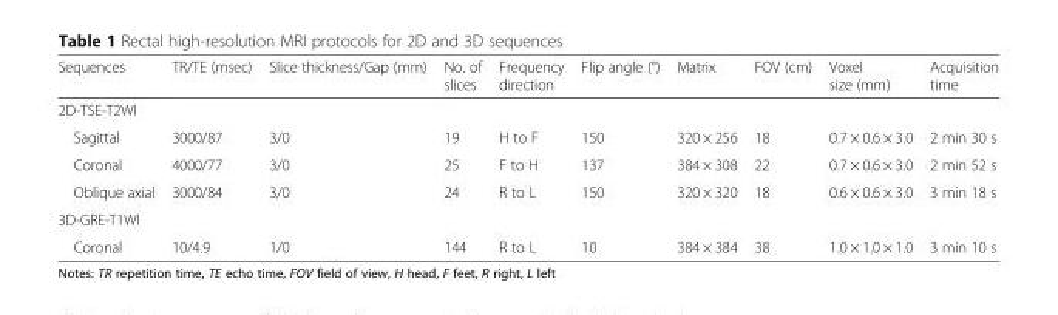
<table><thead><tr><td>Sequences</td><td>TR/TE (msec)</td><td>Slice thickness/Gap (mm)</td><td>No. of slices</td><td>Frequency direction</td><td>Flip angle (°)</td><td>Matrix</td><td>FOV (cm)</td><td>Voxel size (mm)</td><td>Acquisition time</td></tr></thead><tbody><tr><td colspan="10">2D-TSE-T2WI</td></tr><tr><td>Sagittal</td><td>3000/87</td><td>3/0</td><td>19</td><td>H to F</td><td>150</td><td>320 × 256</td><td>18</td><td>0.7 × 0.6 × 3.0</td><td>2 min 30 s</td></tr><tr><td>Coronal</td><td>4000/77</td><td>3/0</td><td>25</td><td>F to H</td><td>137</td><td>384 × 308</td><td>22</td><td>0.7 × 0.6 × 3.0</td><td>2 min 52 s</td></tr><tr><td>Oblique axial</td><td>3000/84</td><td>3/0</td><td>24</td><td>R to L</td><td>150</td><td>320 × 320</td><td>18</td><td>0.6 × 0.6 × 3.0</td><td>3 min 18 s</td></tr><tr><td colspan="10">3D-GRE-T1WI</td></tr><tr><td>Coronal</td><td>10/4.9</td><td>1/0</td><td>144</td><td>R to L</td><td>10</td><td>384 × 384</td><td>38</td><td>1.0 × 1.0 × 1.0</td><td>3 min 10 s</td></tr></tbody></table>